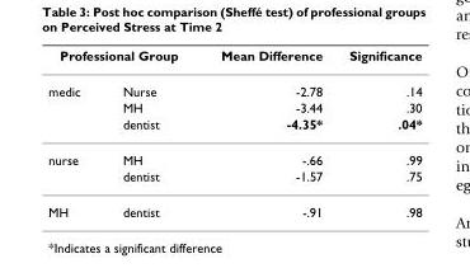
<table><thead><tr><td colspan="2">Professional Group</td><td rowspan="2">Mean Difference -2.78</td><td rowspan="2">Significance .14</td></tr><tr><td>medic</td><td>Nurse</td></tr></thead><tbody><tr><td></td><td>MH</td><td>-3.44</td><td>.30</td></tr><tr><td></td><td>dentist</td><td>-4.35*</td><td>.04*</td></tr><tr><td rowspan="2">nurse</td><td>MH</td><td>-.66</td><td>.99</td></tr><tr><td>dentist</td><td>-1.57</td><td>.75</td></tr><tr><td>MH</td><td>dentist</td><td>-.91</td><td>.98</td></tr></tbody></table>